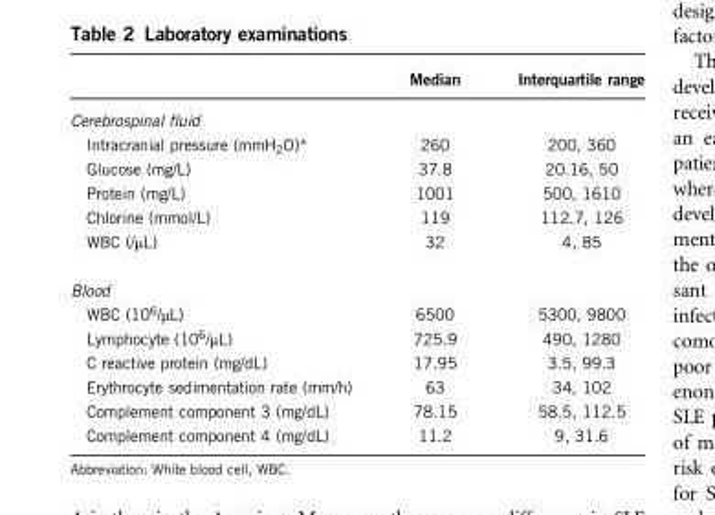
<table><thead><tr><td></td><td>Median</td><td>Interquartile range</td></tr></thead><tbody><tr><td colspan="3">Cerebrospinal fluid</td></tr><tr><td>Intracranial pressure (mmH<sub>2</sub>O)*</td><td>260</td><td>200, 360</td></tr><tr><td>Glucose (mg/L)</td><td>37.8</td><td>20.16, 50</td></tr><tr><td>Protein (mg/L)</td><td>1001</td><td>500, 1610</td></tr><tr><td>Chlorine (mmol/L)</td><td>119</td><td>112.7, 126</td></tr><tr><td>WBC (/μL)</td><td>32</td><td>4, 85</td></tr><tr><td colspan="3">Blood</td></tr><tr><td>WBC (10<sup>6</sup>/μL)</td><td>6500</td><td>5300, 9800</td></tr><tr><td>Lymphocyte (10<sup>6</sup>/μL)</td><td>725.9</td><td>490, 1280</td></tr><tr><td>C reactive protein (mg/dL)</td><td>17.95</td><td>3.5, 99.3</td></tr><tr><td>Erythrocyte sedimentation rate (mm/h)</td><td>63</td><td>34, 102</td></tr><tr><td>Complement component 3 (mg/dL)</td><td>78.15</td><td>58.5, 112.5</td></tr><tr><td>Complement component 4 (mg/dL)</td><td>11.2</td><td>9, 31.6</td></tr></tbody></table>